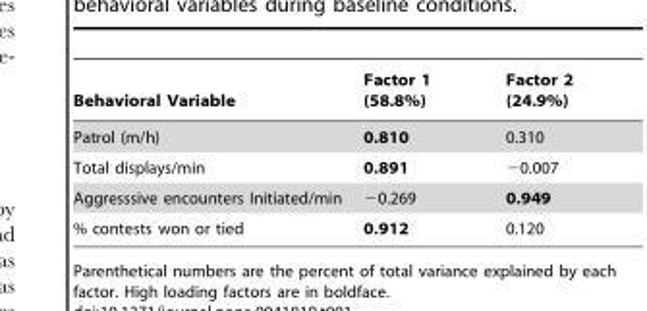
<table><thead><tr><td>Behavioral Variable</td><td>Factor 1 (58.8%)</td><td>Factor 2 (24.9%)</td></tr></thead><tbody><tr><td>Patrol (m/h)</td><td>0.810</td><td>0.310</td></tr><tr><td>Total displays/min</td><td>0.891</td><td>−0.007</td></tr><tr><td>Aggresssive encounters Initiated/min</td><td>−0.269</td><td>0.949</td></tr><tr><td>% contests won or tied</td><td>0.912</td><td>0.120</td></tr></tbody></table>